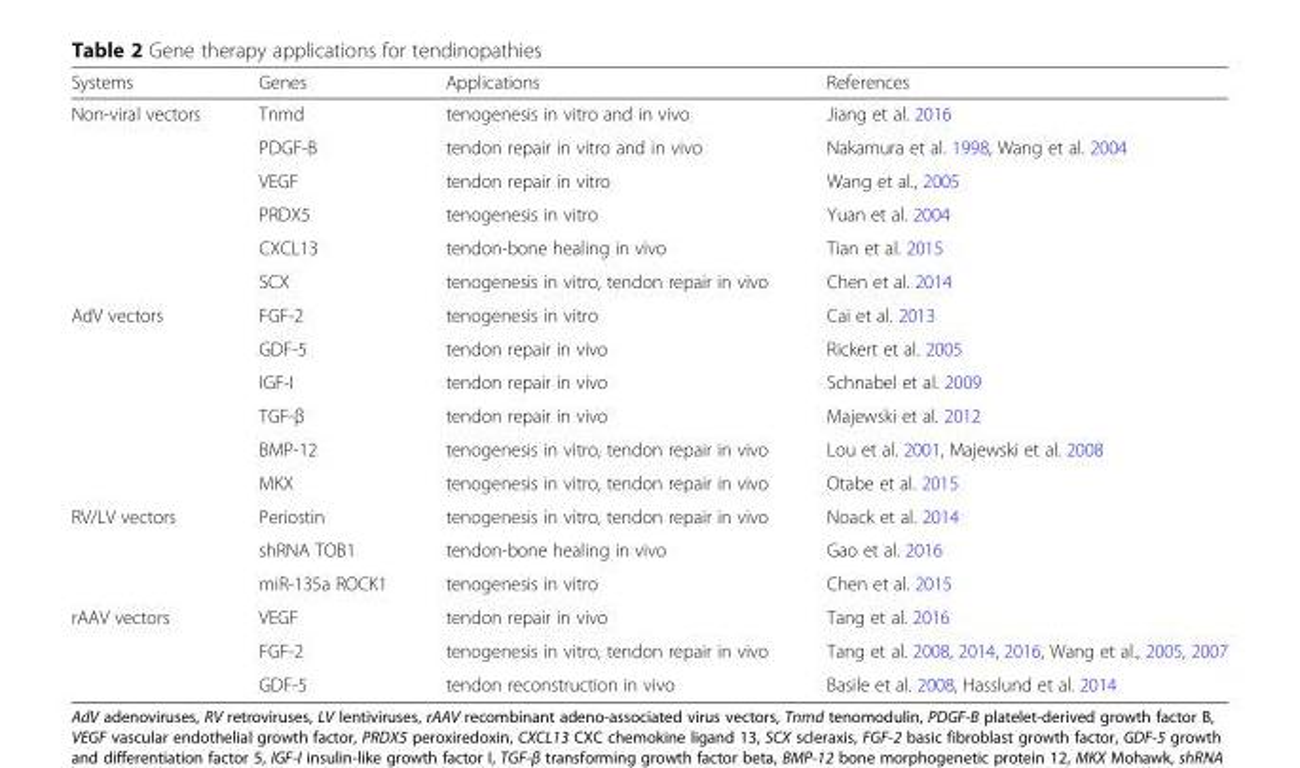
<table><thead><tr><td>Systems</td><td>Genes</td><td>Applications</td><td>References</td></tr></thead><tbody><tr><td rowspan="6">Non-viral vectors</td><td>Tnmd</td><td>tenogenesis in vitro and in vivo</td><td>Jiang et al. 2016</td></tr><tr><td>PDGF-B</td><td>tendon repair in vitro and in vivo</td><td>Nakamura et al. 1998, Wang et al. 2004</td></tr><tr><td>VEGF</td><td>tendon repair in vitro</td><td>Wang et al., 2005</td></tr><tr><td>PRDX5</td><td>tenogenesis in vitro</td><td>Yuan et al. 2004</td></tr><tr><td>CXCL13</td><td>tendon-bone healing in vivo</td><td>Tian et al. 2015</td></tr><tr><td>SCX</td><td>tenogenesis in vitro, tendon repair in vivo</td><td>Chen et al. 2014</td></tr><tr><td rowspan="6">AdV vectors</td><td>FGF-2</td><td>tenogenesis in vitro</td><td>Cai et al. 2013</td></tr><tr><td>GDF-5</td><td>tendon repair in vivo</td><td>Rickert et al. 2005</td></tr><tr><td>IGF-I</td><td>tendon repair in vivo</td><td>Schnabel et al. 2009</td></tr><tr><td>TGF-β</td><td>tendon repair in vivo</td><td>Majewski et al. 2012</td></tr><tr><td>BMP-12</td><td>tenogenesis in vitro, tendon repair in vivo</td><td>Lou et al. 2001, Majewski et al. 2008</td></tr><tr><td>MKX</td><td>tenogenesis in vitro, tendon repair in vivo</td><td>Otabe et al. 2015</td></tr><tr><td rowspan="3">RV/LV vectors</td><td>Periostin</td><td>tenogenesis in vitro, tendon repair in vivo</td><td>Noack et al. 2014</td></tr><tr><td>shRNA TOB1</td><td>tendon-bone healing in vivo</td><td>Gao et al. 2016</td></tr><tr><td>miR-135a ROCK1</td><td>tenogenesis in vitro</td><td>Chen et al. 2015</td></tr><tr><td rowspan="3">rAAV vectors</td><td>VEGF</td><td>tendon repair in vivo</td><td>Tang et al. 2016</td></tr><tr><td>FGF-2</td><td>tenogenesis in vitro, tendon repair in vivo</td><td>Tang et al. 2008, 2014, 2016, Wang et al., 2005, 2007</td></tr><tr><td>GDF-5</td><td>tendon reconstruction in vivo</td><td>Basile et al. 2008, Hasslund et al. 2014</td></tr></tbody></table>